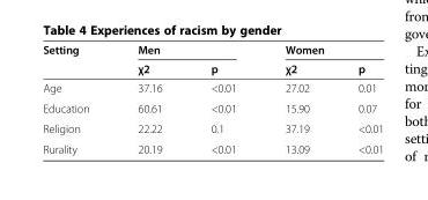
<table><thead><tr><td rowspan="2">Setting</td><td colspan="2">Men</td><td colspan="2">Women</td></tr><tr><td>χ2</td><td>p</td><td>χ2</td><td>p</td></tr></thead><tbody><tr><td>Age</td><td>37.16</td><td>&lt;0.01</td><td>27.02</td><td>0.01</td></tr><tr><td>Education</td><td>60.61</td><td>&lt;0.01</td><td>15.90</td><td>0.07</td></tr><tr><td>Religion</td><td>22.22</td><td>0.1</td><td>37.19</td><td>&lt;0.01</td></tr><tr><td>Rurality</td><td>20.19</td><td>&lt;0.01</td><td>13.09</td><td>&lt;0.01</td></tr></tbody></table>